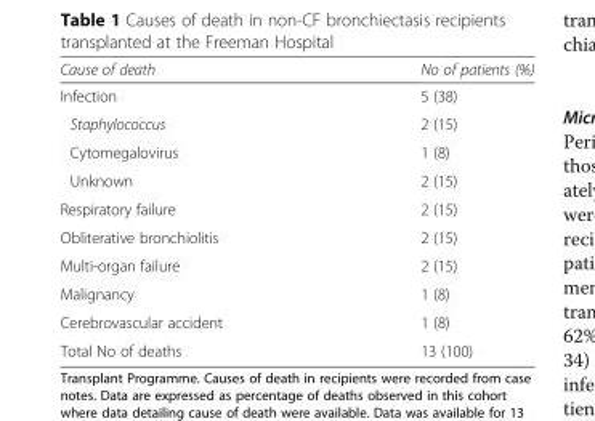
<table><thead><tr><td>Cause of death</td><td>No of patients (%)</td></tr></thead><tbody><tr><td>Infection</td><td>5 (38)</td></tr><tr><td>Staphylococcus</td><td>2 (15)</td></tr><tr><td>Cytomegalovirus</td><td>1 (8)</td></tr><tr><td>Unknown</td><td>2 (15)</td></tr><tr><td>Respiratory failure</td><td>2 (15)</td></tr><tr><td>Obliterative bronchiolitis</td><td>2 (15)</td></tr><tr><td>Multi-organ failure</td><td>2 (15)</td></tr><tr><td>Malignancy</td><td>1 (8)</td></tr><tr><td>Cerebrovascular accident</td><td>1 (8)</td></tr><tr><td>Total No of deaths</td><td>13 (100)</td></tr></tbody></table>